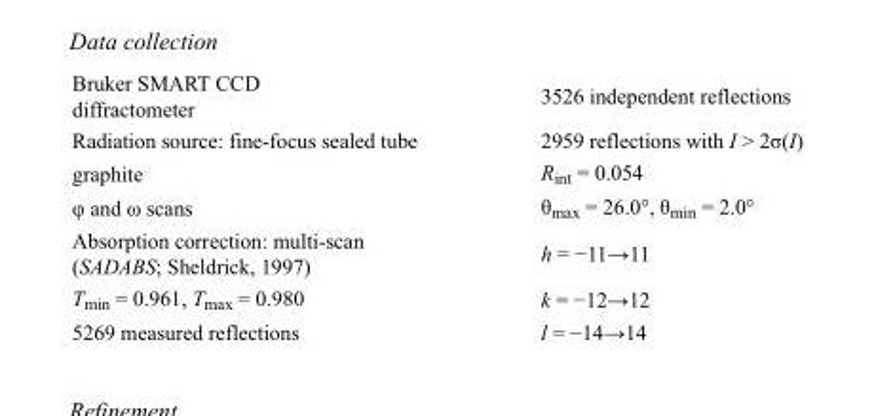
<table><tbody><tr><td>Bruker SMART CCD diffractometer</td><td>3526 independent reflections</td></tr><tr><td>Radiation source: fine-focus sealed tube</td><td>2959 reflections with I &gt; 2σ(I)</td></tr><tr><td>graphite</td><td>R<sub>int</sub> = 0.054</td></tr><tr><td>φ and ω scans</td><td>θ<sub>max</sub> = 26.0°, θ<sub>min</sub> = 2.0°</td></tr><tr><td>Absorption correction: multi-scan (SADABS; Sheldrick, 1997)</td><td>h = −11→11</td></tr><tr><td>T<sub>min</sub> = 0.961, T<sub>max</sub> = 0.980</td><td>k = −12→12</td></tr><tr><td>5269 measured reflections</td><td>l = −14→14</td></tr></tbody></table>